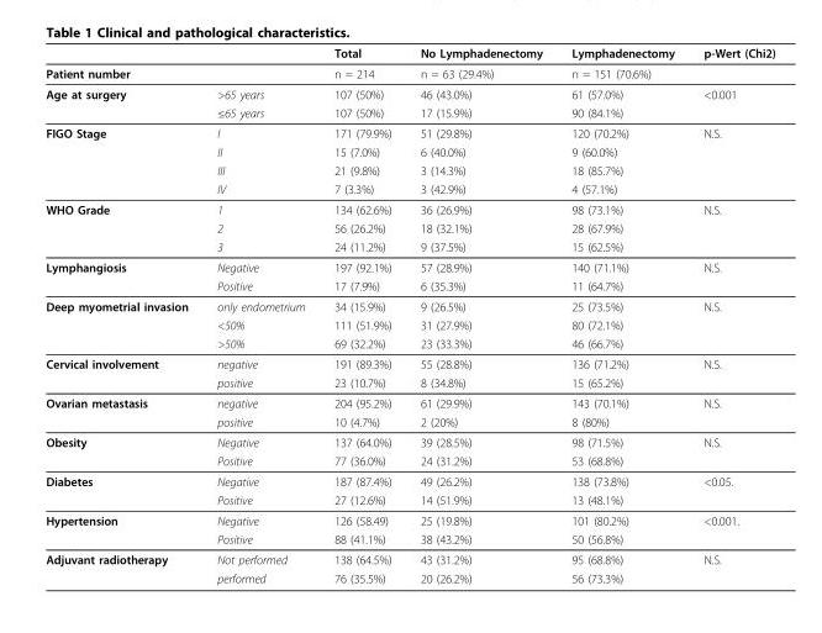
<table><thead><tr><td></td><td></td><td>Total</td><td>No Lymphadenectomy</td><td>Lymphadenectomy</td><td>p-Wert (Chi2)</td></tr></thead><tbody><tr><td>Patient number</td><td></td><td>n = 214</td><td>n = 63 (29.4%)</td><td>n = 151 (70.6%)</td><td></td></tr><tr><td rowspan="2">Age at surgery</td><td>&gt;65 years</td><td>107 (50%)</td><td>46 (43.0%)</td><td>61 (57.0%)</td><td>&lt;0.001</td></tr><tr><td>≤65 years</td><td>107 (50%)</td><td>17 (15.9%)</td><td>90 (84.1%)</td><td></td></tr><tr><td rowspan="4">FIGO Stage</td><td>I</td><td>171 (79.9%)</td><td>51 (29.8%)</td><td>120 (70.2%)</td><td>N.S.</td></tr><tr><td>II</td><td>15 (7.0%)</td><td>6 (40.0%)</td><td>9 (60.0%)</td><td></td></tr><tr><td>III</td><td>21 (9.8%)</td><td>3 (14.3%)</td><td>18 (85.7%)</td><td></td></tr><tr><td>IV</td><td>7 (3.3%)</td><td>3 (42.9%)</td><td>4 (57.1%)</td><td></td></tr><tr><td rowspan="3">WHO Grade</td><td>1</td><td>134 (62.6%)</td><td>36 (26.9%)</td><td>98 (73.1%)</td><td>N.S.</td></tr><tr><td>2</td><td>56 (26.2%)</td><td>18 (32.1%)</td><td>28 (67.9%)</td><td></td></tr><tr><td>3</td><td>24 (11.2%)</td><td>9 (37.5%)</td><td>15 (62.5%)</td><td></td></tr><tr><td rowspan="2">Lymphangiosis</td><td>Negative</td><td>197 (92.1%)</td><td>57 (28.9%)</td><td>140 (71.1%)</td><td>N.S.</td></tr><tr><td>Positive</td><td>17 (7.9%)</td><td>6 (35.3%)</td><td>11 (64.7%)</td><td></td></tr><tr><td rowspan="3">Deep myometrial invasion</td><td>only endometrium</td><td>34 (15.9%)</td><td>9 (26.5%)</td><td>25 (73.5%)</td><td>N.S.</td></tr><tr><td>&lt;50%</td><td>111 (51.9%)</td><td>31 (27.9%)</td><td>80 (72.1%)</td><td></td></tr><tr><td>&gt;50%</td><td>69 (32.2%)</td><td>23 (33.3%)</td><td>46 (66.7%)</td><td></td></tr><tr><td rowspan="2">Cervical involvement</td><td>negative</td><td>191 (89.3%)</td><td>55 (28.8%)</td><td>136 (71.2%)</td><td>N.S.</td></tr><tr><td>positive</td><td>23 (10.7%)</td><td>8 (34.8%)</td><td>15 (65.2%)</td><td></td></tr><tr><td rowspan="2">Ovarian metastasis</td><td>negative</td><td>204 (95.2%)</td><td>61 (29.9%)</td><td>143 (70.1%)</td><td>N.S.</td></tr><tr><td>positive</td><td>10 (4.7%)</td><td>2 (20%)</td><td>8 (80%)</td><td></td></tr><tr><td rowspan="2">Obesity</td><td>Negative</td><td>137 (64.0%)</td><td>39 (28.5%)</td><td>98 (71.5%)</td><td>N.S.</td></tr><tr><td>Positive</td><td>77 (36.0%)</td><td>24 (31.2%)</td><td>53 (68.8%)</td><td></td></tr><tr><td rowspan="2">Diabetes</td><td>Negative</td><td>187 (87.4%)</td><td>49 (26.2%)</td><td>138 (73.8%)</td><td>&lt;0.05.</td></tr><tr><td>Positive</td><td>27 (12.6%)</td><td>14 (51.9%)</td><td>13 (48.1%)</td><td></td></tr><tr><td rowspan="2">Hypertension</td><td>Negative</td><td>126 (58.49)</td><td>25 (19.8%)</td><td>101 (80.2%)</td><td>&lt;0.001.</td></tr><tr><td>Positive</td><td>88 (41.1%)</td><td>38 (43.2%)</td><td>50 (56.8%)</td><td></td></tr><tr><td rowspan="2">Adjuvant radiotherapy</td><td>Not performed</td><td>138 (64.5%)</td><td>43 (31.2%)</td><td>95 (68.8%)</td><td>N.S.</td></tr><tr><td>performed</td><td>76 (35.5%)</td><td>20 (26.2%)</td><td>56 (73.3%)</td><td></td></tr></tbody></table>